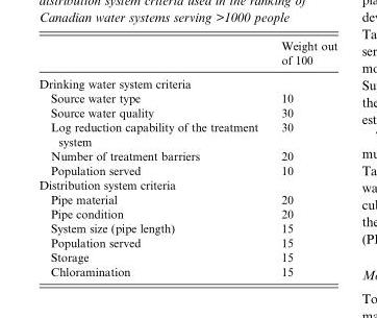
<table><thead><tr><td></td><td>Weight out of 100</td></tr></thead><tbody><tr><td colspan="2">Drinking water system criteria</td></tr><tr><td>Source water type</td><td>10</td></tr><tr><td>Source water quality</td><td>30</td></tr><tr><td>Log reduction capability of the treatment system</td><td>30</td></tr><tr><td>Number of treatment barriers</td><td>20</td></tr><tr><td>Population served</td><td>10</td></tr><tr><td colspan="2">Distribution system criteria</td></tr><tr><td>Pipe material</td><td>20</td></tr><tr><td>Pipe condition</td><td>20</td></tr><tr><td>System size (pipe length)</td><td>15</td></tr><tr><td>Population served</td><td>15</td></tr><tr><td>Storage</td><td>15</td></tr><tr><td>Chloramination</td><td>15</td></tr></tbody></table>